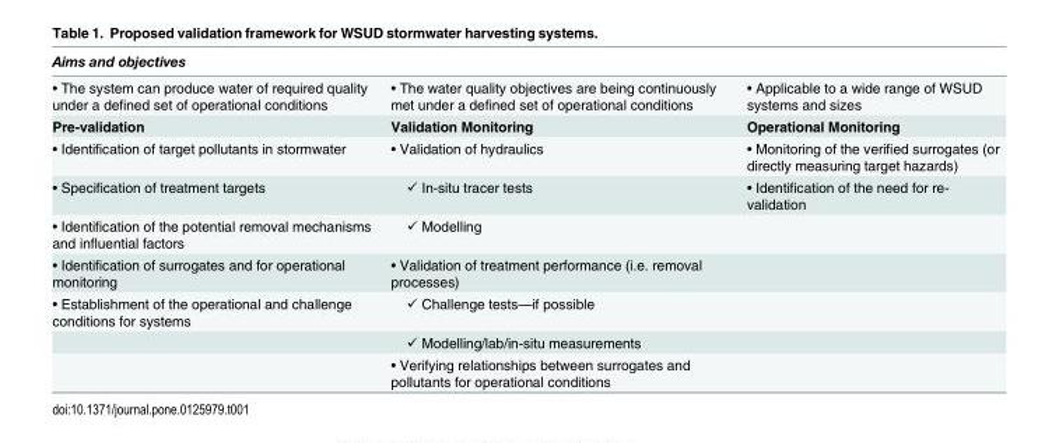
<table><thead><tr><td>Aims and objectives</td><td></td><td></td></tr></thead><tbody><tr><td>• The system can produce water of required quality under a defined set of operational conditions</td><td>• The water quality objectives are being continuously met under a defined set of operational conditions</td><td>• Applicable to a wide range of WSUD systems and sizes</td></tr><tr><td>Pre-validation</td><td>Validation Monitoring</td><td>Operational Monitoring</td></tr><tr><td>• Identification of target pollutants in stormwater</td><td>• Validation of hydraulics</td><td>• Monitoring of the verified surrogates (or directly measuring target hazards)</td></tr><tr><td>• Specification of treatment targets</td><td>✓ In-situ tracer tests</td><td>• Identification of the need for re- validation</td></tr><tr><td>• Identification of the potential removal mechanisms and influential factors</td><td>✓ Modelling</td><td></td></tr><tr><td>• Identification of surrogates and for operational monitoring</td><td>• Validation of treatment performance (i.e. removal processes)</td><td></td></tr><tr><td rowspan="3">• Establishment of the operational and challenge conditions for systems</td><td>✓ Challenge tests—if possible</td><td></td></tr><tr><td>✓ Modelling/lab/in-situ measurements</td><td></td></tr><tr><td>• Verifying relationships between surrogates and pollutants for operational conditions</td><td></td></tr></tbody></table>